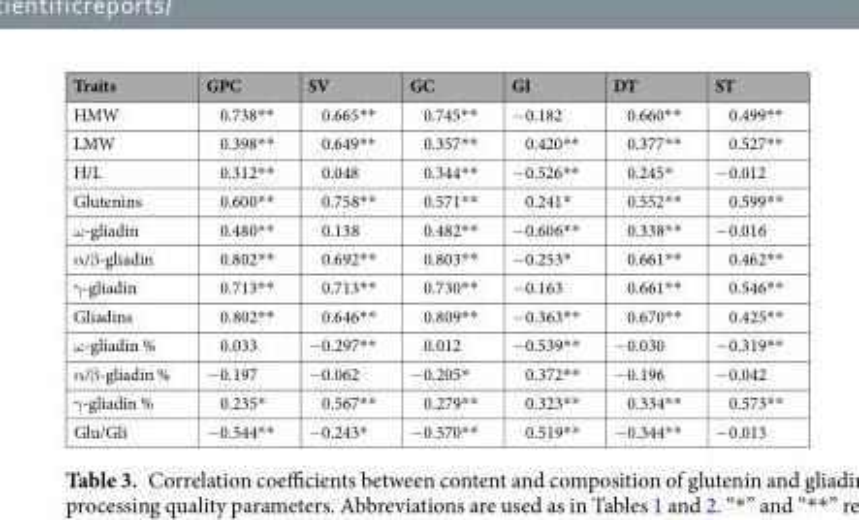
<table><thead><tr><td>Traits</td><td>GPC</td><td>SV</td><td>GC</td><td>GI</td><td>DT</td><td>ST</td></tr></thead><tbody><tr><td>HMW</td><td>0.738**</td><td>0.665**</td><td>0.745**</td><td>−0.182</td><td>0.660**</td><td>0.499**</td></tr><tr><td>LMW</td><td>0.398**</td><td>0.649**</td><td>0.357**</td><td>0.420**</td><td>0.377**</td><td>0.527**</td></tr><tr><td>H/L</td><td>0.312**</td><td>0.048</td><td>0.344**</td><td>−0.526**</td><td>0.245*</td><td>−0.012</td></tr><tr><td>Glutenins</td><td>0.600**</td><td>0.758**</td><td>0.571**</td><td>0.241*</td><td>0.552**</td><td>0.599**</td></tr><tr><td>ω-gliadin</td><td>0.480**</td><td>0.138</td><td>0.482**</td><td>−0.606**</td><td>0.338**</td><td>−0.016</td></tr><tr><td>α/β-gliadin</td><td>0.802**</td><td>0.692**</td><td>0.803**</td><td>−0.253*</td><td>0.661**</td><td>0.462**</td></tr><tr><td>γ-gliadin</td><td>0.713**</td><td>0.713**</td><td>0.730**</td><td>−0.163</td><td>0.661**</td><td>0.546**</td></tr><tr><td>Gliadins</td><td>0.802**</td><td>0.646**</td><td>0.809**</td><td>−0.363**</td><td>0.670**</td><td>0.425**</td></tr><tr><td>ω-gliadin %</td><td>0.033</td><td>−0.297**</td><td>0.012</td><td>−0.539**</td><td>−0.030</td><td>−0.319**</td></tr><tr><td>α/β-gliadin %</td><td>−0.197</td><td>−0.062</td><td>−0.205*</td><td>0.372**</td><td>−0.196</td><td>−0.042</td></tr><tr><td>γ-gliadin %</td><td>0.235*</td><td>0.567**</td><td>0.279**</td><td>0.323**</td><td>0.334**</td><td>0.573**</td></tr><tr><td>Glu/Gli</td><td>−0.544**</td><td>−0.243*</td><td>−0.570**</td><td>0.519**</td><td>−0.344**</td><td>−0.013</td></tr></tbody></table>